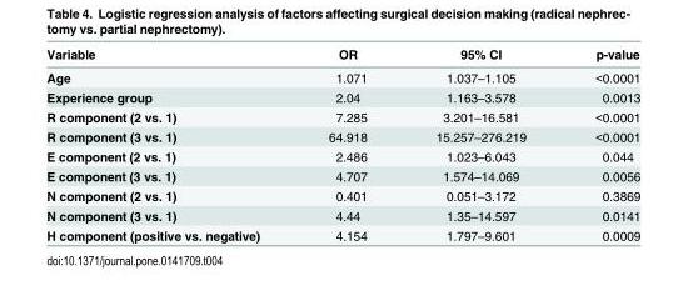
<table><thead><tr><td>Variable</td><td>OR</td><td>95% CI</td><td>p-value</td></tr></thead><tbody><tr><td>Age</td><td>1.071</td><td>1.037–1.105</td><td>&lt;0.0001</td></tr><tr><td>Experience group</td><td>2.04</td><td>1.163–3.578</td><td>0.0013</td></tr><tr><td>R component (2 vs. 1)</td><td>7.285</td><td>3.201–16.581</td><td>&lt;0.0001</td></tr><tr><td>R component (3 vs. 1)</td><td>64.918</td><td>15.257–276.219</td><td>&lt;0.0001</td></tr><tr><td>E component (2 vs. 1)</td><td>2.486</td><td>1.023–6.043</td><td>0.044</td></tr><tr><td>E component (3 vs. 1)</td><td>4.707</td><td>1.574–14.069</td><td>0.0056</td></tr><tr><td>N component (2 vs. 1)</td><td>0.401</td><td>0.051–3.172</td><td>0.3869</td></tr><tr><td>N component (3 vs. 1)</td><td>4.44</td><td>1.35–14.597</td><td>0.0141</td></tr><tr><td>H component (positive vs. negative)</td><td>4.154</td><td>1.797–9.601</td><td>0.0009</td></tr></tbody></table>